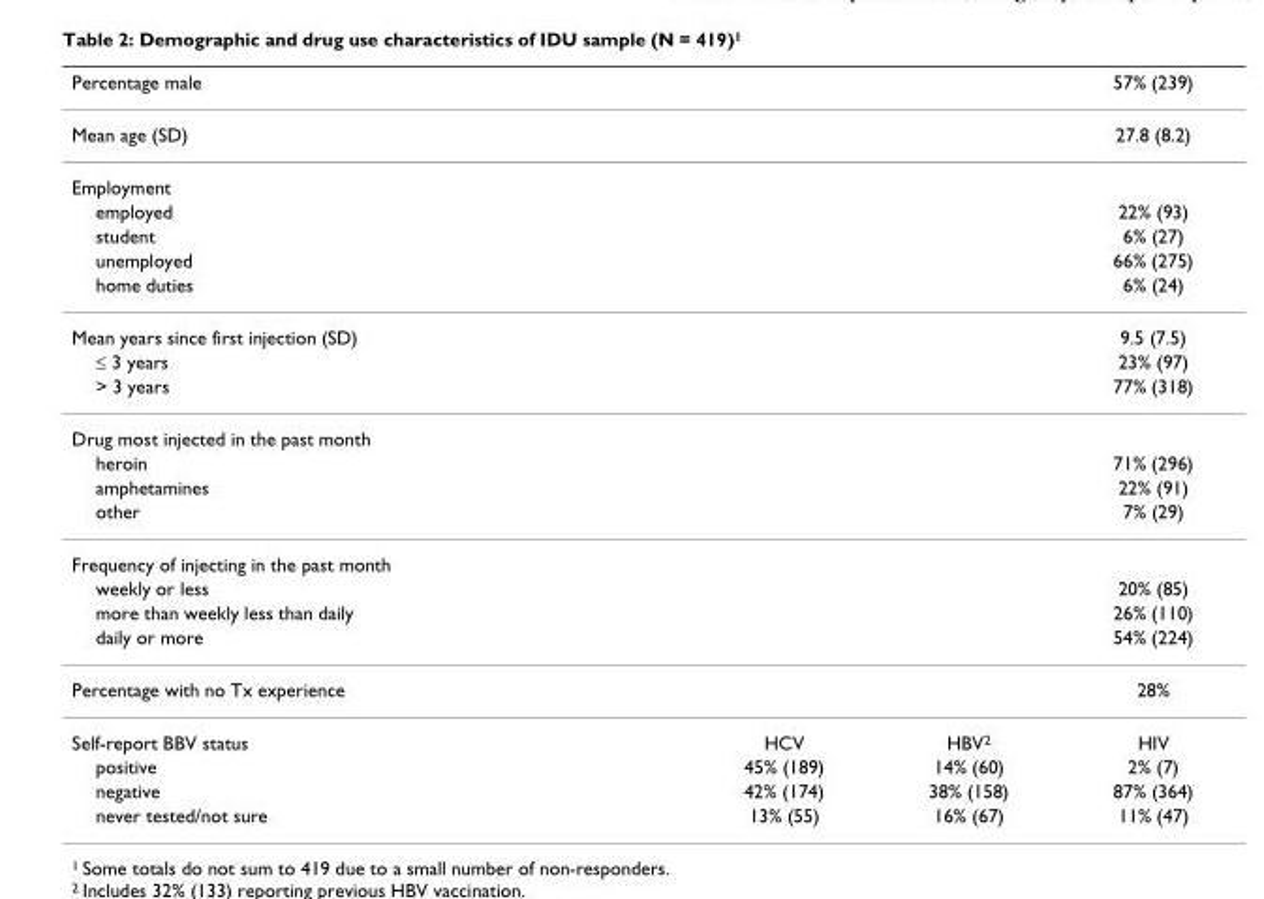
<table><thead><tr><td>Percentage male</td><td></td><td></td><td>57% (239)</td></tr></thead><tbody><tr><td>Mean age (SD)</td><td></td><td></td><td>27.8 (8.2)</td></tr><tr><td colspan="4">Employment</td></tr><tr><td>employed</td><td></td><td></td><td>22% (93)</td></tr><tr><td>student</td><td></td><td></td><td>6% (27)</td></tr><tr><td>unemployed</td><td></td><td></td><td>66% (275)</td></tr><tr><td>home duties</td><td></td><td></td><td>6% (24)</td></tr><tr><td>Mean years since first injection (SD)</td><td></td><td></td><td>9.5 (7.5)</td></tr><tr><td>≤ 3 years</td><td></td><td></td><td>23% (97)</td></tr><tr><td>&gt; 3 years</td><td></td><td></td><td>77% (318)</td></tr><tr><td colspan="4">Drug most injected in the past month</td></tr><tr><td>heroin</td><td></td><td></td><td>71% (296)</td></tr><tr><td>amphetamines</td><td></td><td></td><td>22% (91)</td></tr><tr><td>other</td><td></td><td></td><td>7% (29)</td></tr><tr><td colspan="4">Frequency of injecting in the past month</td></tr><tr><td>weekly or less</td><td></td><td></td><td>20% (85)</td></tr><tr><td>more than weekly less than daily</td><td></td><td></td><td>26% (110)</td></tr><tr><td>daily or more</td><td></td><td></td><td>54% (224)</td></tr><tr><td>Percentage with no Tx experience</td><td></td><td></td><td>28%</td></tr><tr><td>Self-report BBV status</td><td>HCV</td><td>HBV<sup>2</sup></td><td>HIV</td></tr><tr><td>positive</td><td>45% (189)</td><td>14% (60)</td><td>2% (7)</td></tr><tr><td>negative</td><td>42% (174)</td><td>38% (158)</td><td>87% (364)</td></tr><tr><td>never tested/not sure</td><td>13% (55)</td><td>16% (67)</td><td>11% (47)</td></tr></tbody></table>